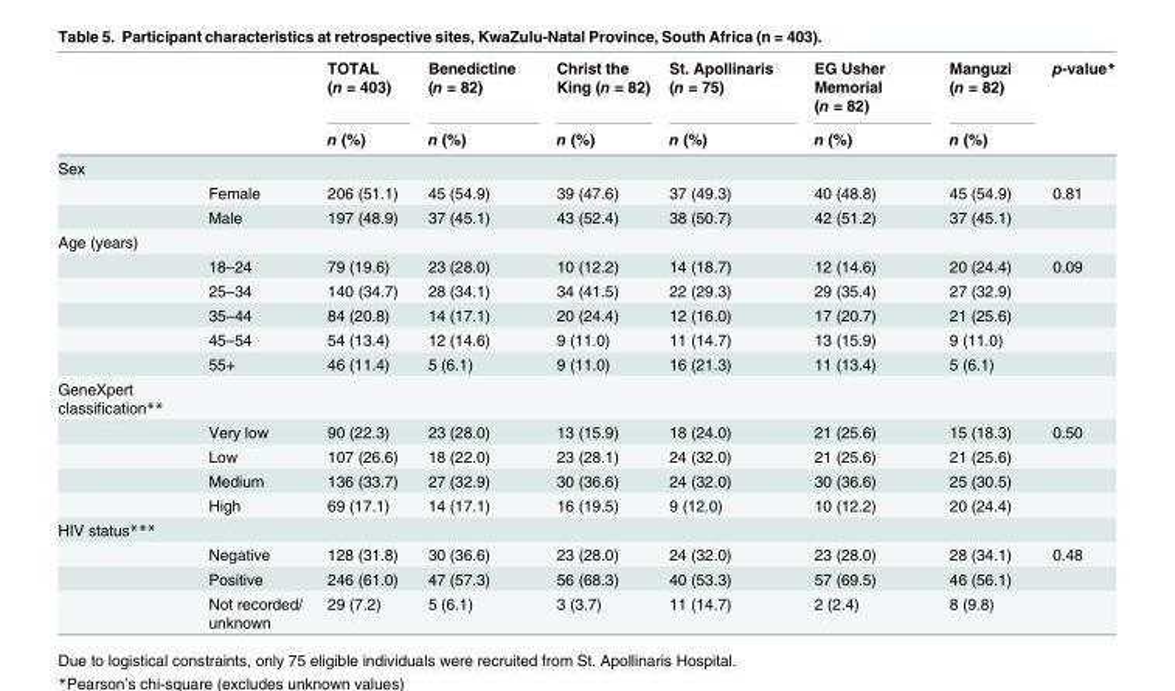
<table><thead><tr><td rowspan="2"></td><td rowspan="2"></td><td rowspan="2">TOTAL (n = 403) n (%)</td><td rowspan="2">Benedictine (n = 82) n (%)</td><td rowspan="2">Christ the King (n = 82) n (%)</td><td rowspan="2">St. Apollinaris (n = 75) n (%)</td><td rowspan="2">EG Usher Memorial (n = 82) n (%)</td><td rowspan="2">Manguzi (n = 82) n (%)</td><td rowspan="2">p-value*</td></tr><tr></tr></thead><tbody><tr><td colspan="9">Sex</td></tr><tr><td></td><td>Female</td><td>206 (51.1)</td><td>45 (54.9)</td><td>39 (47.6)</td><td>37 (49.3)</td><td>40 (48.8)</td><td>45 (54.9)</td><td>0.81</td></tr><tr><td></td><td>Male</td><td>197 (48.9)</td><td>37 (45.1)</td><td>43 (52.4)</td><td>38 (50.7)</td><td>42 (51.2)</td><td>37 (45.1)</td><td></td></tr><tr><td colspan="9">Age (years)</td></tr><tr><td></td><td>18–24</td><td>79 (19.6)</td><td>23 (28.0)</td><td>10 (12.2)</td><td>14 (18.7)</td><td>12 (14.6)</td><td>20 (24.4)</td><td>0.09</td></tr><tr><td></td><td>25–34</td><td>140 (34.7)</td><td>28 (34.1)</td><td>34 (41.5)</td><td>22 (29.3)</td><td>29 (35.4)</td><td>27 (32.9)</td><td></td></tr><tr><td></td><td>35–44</td><td>84 (20.8)</td><td>14 (17.1)</td><td>20 (24.4)</td><td>12 (16.0)</td><td>17 (20.7)</td><td>21 (25.6)</td><td></td></tr><tr><td></td><td>45–54</td><td>54 (13.4)</td><td>12 (14.6)</td><td>9 (11.0)</td><td>11 (14.7)</td><td>13 (15.9)</td><td>9 (11.0)</td><td></td></tr><tr><td></td><td>55+</td><td>46 (11.4)</td><td>5 (6.1)</td><td>9 (11.0)</td><td>16 (21.3)</td><td>11 (13.4)</td><td>5 (6.1)</td><td></td></tr><tr><td colspan="9">GeneXpert classification**</td></tr><tr><td></td><td>Very low</td><td>90 (22.3)</td><td>23 (28.0)</td><td>13 (15.9)</td><td>18 (24.0)</td><td>21 (25.6)</td><td>15 (18.3)</td><td>0.50</td></tr><tr><td></td><td>Low</td><td>107 (26.6)</td><td>18 (22.0)</td><td>23 (28.1)</td><td>24 (32.0)</td><td>21 (25.6)</td><td>21 (25.6)</td><td></td></tr><tr><td></td><td>Medium</td><td>136 (33.7)</td><td>27 (32.9)</td><td>30 (36.6)</td><td>24 (32.0)</td><td>30 (36.6)</td><td>25 (30.5)</td><td></td></tr><tr><td></td><td>High</td><td>69 (17.1)</td><td>14 (17.1)</td><td>16 (19.5)</td><td>9 (12.0)</td><td>10 (12.2)</td><td>20 (24.4)</td><td></td></tr><tr><td colspan="9">HIV status***</td></tr><tr><td></td><td>Negative</td><td>128 (31.8)</td><td>30 (36.6)</td><td>23 (28.0)</td><td>24 (32.0)</td><td>23 (28.0)</td><td>28 (34.1)</td><td>0.48</td></tr><tr><td></td><td>Positive</td><td>246 (61.0)</td><td>47 (57.3)</td><td>56 (68.3)</td><td>40 (53.3)</td><td>57 (69.5)</td><td>46 (56.1)</td><td></td></tr><tr><td></td><td>Not recorded/ unknown</td><td>29 (7.2)</td><td>5 (6.1)</td><td>3 (3.7)</td><td>11 (14.7)</td><td>2 (2.4)</td><td>8 (9.8)</td><td></td></tr></tbody></table>